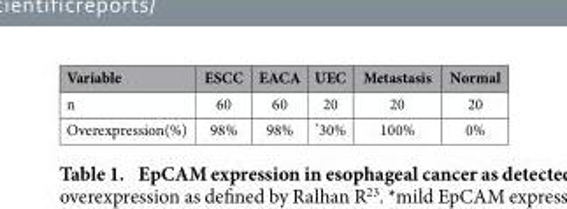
<table><thead><tr><td>Variable</td><td>ESCC</td><td>EACA</td><td>UEC</td><td>Metastasis</td><td>Normal</td></tr></thead><tbody><tr><td>n</td><td>60</td><td>60</td><td>20</td><td>20</td><td>20</td></tr><tr><td>Overexpression(%)</td><td>98%</td><td>98%</td><td>*30%</td><td>100%</td><td>0%</td></tr></tbody></table>